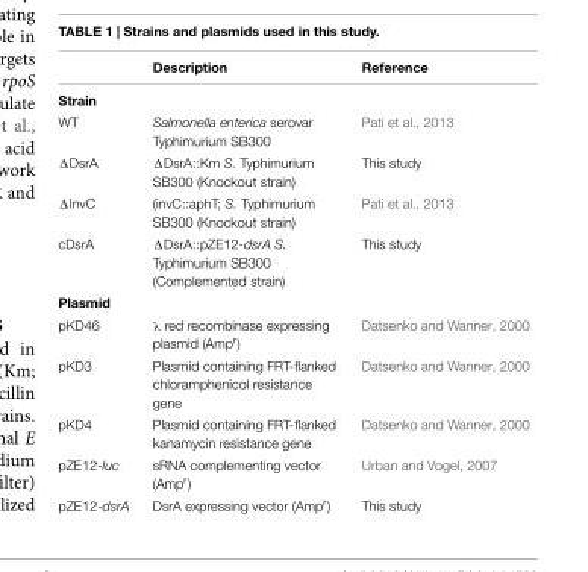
<table><thead><tr><td></td><td>Description</td><td>Reference</td></tr></thead><tbody><tr><td colspan="3">Strain</td></tr><tr><td>WT</td><td>Salmonella enterica serovar Typhimurium SB300</td><td>Pati et al., 2013</td></tr><tr><td>ΔDsrA</td><td>ΔDsrA::Km S. Typhimurium SB300 (Knockout strain)</td><td>This study</td></tr><tr><td>ΔInvC</td><td>(invC::aphT; S. Typhimurium SB300 (Knockout strain)</td><td>Pati et al., 2013</td></tr><tr><td>cDsrA</td><td>ΔDsrA::pZE12-dsrA S. Typhimurium SB300 (Complemented strain)</td><td>This study</td></tr><tr><td colspan="3">Plasmid</td></tr><tr><td>pKD46</td><td>λ red recombinase expressing plasmid (Ampr)</td><td>Datsenko and Wanner, 2000</td></tr><tr><td>pKD3</td><td>Plasmid containing FRT-flanked chloramphenicol resistance gene</td><td>Datsenko and Wanner, 2000</td></tr><tr><td>pKD4</td><td>Plasmid containing FRT-flanked kanamycin resistance gene</td><td>Datsenko and Wanner, 2000</td></tr><tr><td>pZE12-luc</td><td>sRNA complementing vector (Amp<sup>r</sup>)</td><td>Urban and Vogel, 2007</td></tr><tr><td>pZE12-dsrA</td><td>DsrA expressing vector (Amp<sup>r</sup>)</td><td>This study</td></tr></tbody></table>